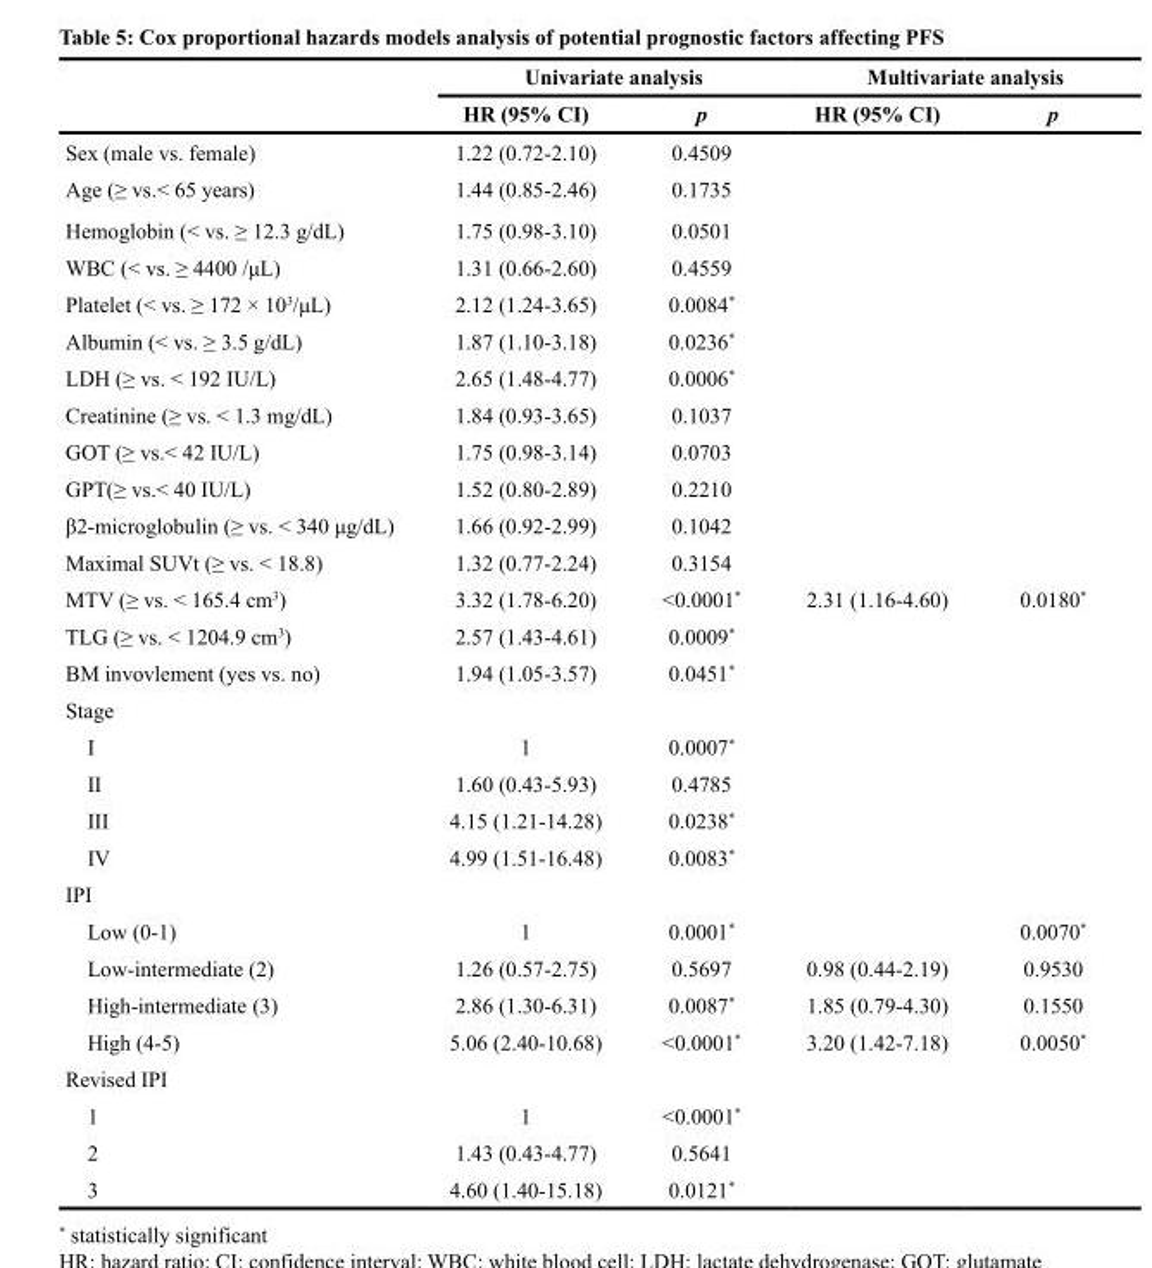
<table><thead><tr><td rowspan="2"></td><td colspan="2">Univariate analysis</td><td colspan="2">Multivariate analysis</td></tr><tr><td>HR (95% CI)</td><td>p</td><td>HR (95% CI)</td><td>p</td></tr></thead><tbody><tr><td>Sex (male vs. female)</td><td>1.22 (0.72-2.10)</td><td>0.4509</td><td></td><td></td></tr><tr><td>Age (≥ vs.&lt; 65 years)</td><td>1.44 (0.85-2.46)</td><td>0.1735</td><td></td><td></td></tr><tr><td>Hemoglobin (&lt; vs. ≥ 12.3 g/dL)</td><td>1.75 (0.98-3.10)</td><td>0.0501</td><td></td><td></td></tr><tr><td>WBC (&lt; vs. ≥ 4400 /μL)</td><td>1.31 (0.66-2.60)</td><td>0.4559</td><td></td><td></td></tr><tr><td>Platelet (&lt; vs. ≥ 172 × 10<sup>3</sup>/μL)</td><td>2.12 (1.24-3.65)</td><td>0.0084*</td><td></td><td></td></tr><tr><td>Albumin (&lt; vs. ≥ 3.5 g/dL)</td><td>1.87 (1.10-3.18)</td><td>0.0236*</td><td></td><td></td></tr><tr><td>LDH (≥ vs. &lt; 192 IU/L)</td><td>2.65 (1.48-4.77)</td><td>0.0006*</td><td></td><td></td></tr><tr><td>Creatinine (≥ vs. &lt; 1.3 mg/dL)</td><td>1.84 (0.93-3.65)</td><td>0.1037</td><td></td><td></td></tr><tr><td>GOT (≥ vs.&lt; 42 IU/L)</td><td>1.75 (0.98-3.14)</td><td>0.0703</td><td></td><td></td></tr><tr><td>GPT(≥ vs.&lt; 40 IU/L)</td><td>1.52 (0.80-2.89)</td><td>0.2210</td><td></td><td></td></tr><tr><td>β2-microglobulin (≥ vs. &lt; 340 μg/dL)</td><td>1.66 (0.92-2.99)</td><td>0.1042</td><td></td><td></td></tr><tr><td>Maximal SUVt (≥ vs. &lt; 18.8)</td><td>1.32 (0.77-2.24)</td><td>0.3154</td><td></td><td></td></tr><tr><td>MTV (≥ vs. &lt; 165.4 cm<sup>3</sup>)</td><td>3.32 (1.78-6.20)</td><td>&lt;0.0001*</td><td>2.31 (1.16-4.60)</td><td>0.0180*</td></tr><tr><td>TLG (≥ vs. &lt; 1204.9 cm<sup>3</sup>)</td><td>2.57 (1.43-4.61)</td><td>0.0009*</td><td></td><td></td></tr><tr><td>BM invovlement (yes vs. no)</td><td>1.94 (1.05-3.57)</td><td>0.0451*</td><td></td><td></td></tr><tr><td colspan="5">Stage</td></tr><tr><td>I</td><td>1</td><td>0.0007*</td><td></td><td></td></tr><tr><td>II</td><td>1.60 (0.43-5.93)</td><td>0.4785</td><td></td><td></td></tr><tr><td>III</td><td>4.15 (1.21-14.28)</td><td>0.0238*</td><td></td><td></td></tr><tr><td>IV</td><td>4.99 (1.51-16.48)</td><td>0.0083*</td><td></td><td></td></tr><tr><td colspan="5">IPI</td></tr><tr><td>Low (0-1)</td><td>1</td><td>0.0001*</td><td></td><td>0.0070*</td></tr><tr><td>Low-intermediate (2)</td><td>1.26 (0.57-2.75)</td><td>0.5697</td><td>0.98 (0.44-2.19)</td><td>0.9530</td></tr><tr><td>High-intermediate (3)</td><td>2.86 (1.30-6.31)</td><td>0.0087*</td><td>1.85 (0.79-4.30)</td><td>0.1550</td></tr><tr><td>High (4-5)</td><td>5.06 (2.40-10.68)</td><td>&lt;0.0001*</td><td>3.20 (1.42-7.18)</td><td>0.0050*</td></tr><tr><td colspan="5">Revised IPI</td></tr><tr><td>1</td><td>1</td><td>&lt;0.0001*</td><td></td><td></td></tr><tr><td>2</td><td>1.43 (0.43-4.77)</td><td>0.5641</td><td></td><td></td></tr><tr><td>3</td><td>4.60 (1.40-15.18)</td><td>0.0121*</td><td></td><td></td></tr></tbody></table>